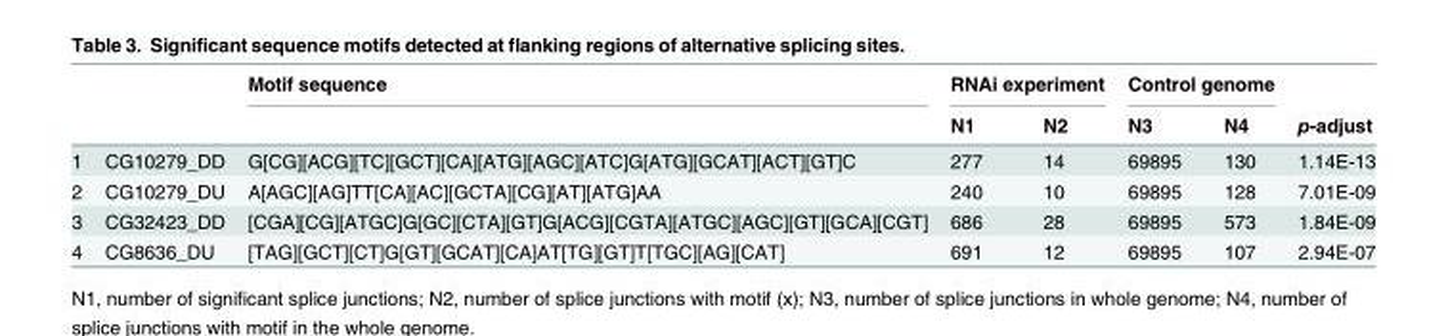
<table><thead><tr><td rowspan="2"></td><td rowspan="2"></td><td rowspan="2">Motif sequence</td><td colspan="2">RNAi experiment</td><td colspan="2">Control genome</td><td rowspan="2">p-adjust</td></tr><tr><td>N1</td><td>N2</td><td>N3</td><td>N4</td></tr></thead><tbody><tr><td>1</td><td>CG10279_DD</td><td>G[CG][ACG][TC][GCT][CA][ATG][AGC][ATC]G[ATG][GCAT][ACT][GT]C</td><td>277</td><td>14</td><td>69895</td><td>130</td><td>1.14E-13</td></tr><tr><td>2</td><td>CG10279_DU</td><td>A[AGC][AG]TT[CA][AC][GCTA][CG][AT][ATG]AA</td><td>240</td><td>10</td><td>69895</td><td>128</td><td>7.01E-09</td></tr><tr><td>3</td><td>CG32423_DD</td><td>[CGA][CG][ATGC]G[GC][CTA][GT]G[ACG][CGTA][ATGC][AGC][GT][GCA][CGT]</td><td>686</td><td>28</td><td>69895</td><td>573</td><td>1.84E-09</td></tr><tr><td>4</td><td>CG8636_DU</td><td>[TAG][GCT][CT]G[GT][GCAT][CA]AT[TG][GT]T[TGC][AG][CAT]</td><td>691</td><td>12</td><td>69895</td><td>107</td><td>2.94E-07</td></tr></tbody></table>